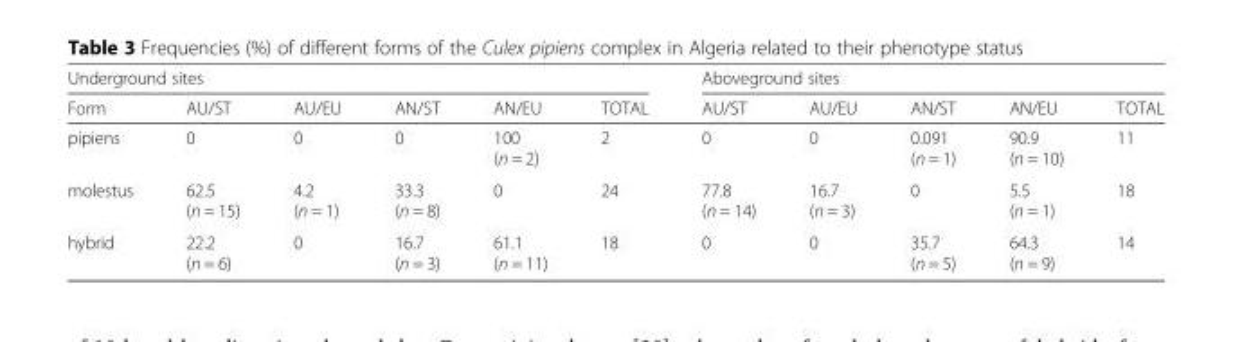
<table><thead><tr><td colspan="6">Underground sites</td><td colspan="5">Aboveground sites</td></tr><tr><td>Form</td><td>AU/ST</td><td>AU/EU</td><td>AN/ST</td><td>AN/EU</td><td>TOTAL</td><td>AU/ST</td><td>AU/EU</td><td>AN/ST</td><td>AN/EU</td><td>TOTAL</td></tr></thead><tbody><tr><td>pipiens</td><td>0</td><td>0</td><td>0</td><td>100 (n = 2)</td><td>2</td><td>0</td><td>0</td><td>0.091 (n = 1)</td><td>90.9 (n = 10)</td><td>11</td></tr><tr><td>molestus</td><td>62.5 (n = 15)</td><td>4.2 (n = 1)</td><td>33.3 (n = 8)</td><td>0</td><td>24</td><td>77.8 (n = 14)</td><td>16.7 (n = 3)</td><td>0</td><td>5.5 (n = 1)</td><td>18</td></tr><tr><td>hybrid</td><td>22.2 (n = 6)</td><td>0</td><td>16.7 (n = 3)</td><td>61.1 (n = 11)</td><td>18</td><td>0</td><td>0</td><td>35.7 (n = 5)</td><td>64.3 (n = 9)</td><td>14</td></tr></tbody></table>